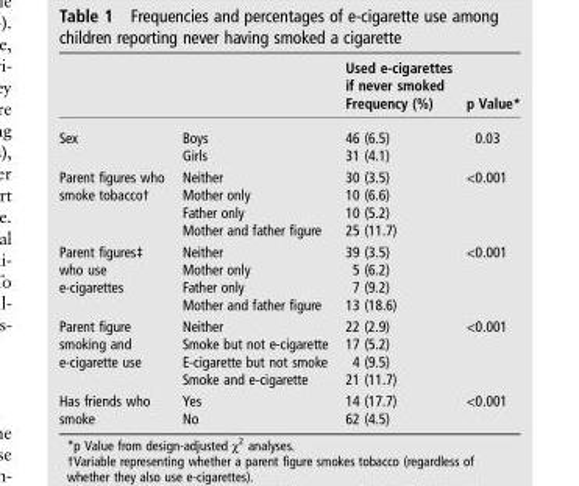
<table><thead><tr><td></td><td></td><td>Used e-cigarettes if never smoked Frequency (%)</td><td>p Value*</td></tr></thead><tbody><tr><td rowspan="2">Sex</td><td>Boys</td><td>46 (6.5)</td><td rowspan="2">0.03</td></tr><tr><td>Girls</td><td>31 (4.1)</td></tr><tr><td rowspan="4">Parent figures who smoke tobacco†</td><td>Neither</td><td>30 (3.5)</td><td rowspan="4">&lt;0.001</td></tr><tr><td>Mother only</td><td>10 (6.6)</td></tr><tr><td>Father only</td><td>10 (5.2)</td></tr><tr><td>Mother and father figure</td><td>25 (11.7)</td></tr><tr><td rowspan="4">Parent figures‡ who use e-cigarettes</td><td>Neither</td><td>39 (3.5)</td><td rowspan="4">&lt;0.001</td></tr><tr><td>Mother only</td><td>5 (6.2)</td></tr><tr><td>Father only</td><td>7 (9.2)</td></tr><tr><td>Mother and father figure</td><td>13 (18.6)</td></tr><tr><td rowspan="4">Parent figure smoking and e-cigarette use</td><td>Neither</td><td>22 (2.9)</td><td rowspan="4">&lt;0.001</td></tr><tr><td>Smoke but not e-cigarette</td><td>17 (5.2)</td></tr><tr><td>E-cigarette but not smoke</td><td>4 (9.5)</td></tr><tr><td>Smoke and e-cigarette</td><td>21 (11.7)</td></tr><tr><td rowspan="2">Has friends who smoke</td><td>Yes</td><td>14 (17.7)</td><td rowspan="2">&lt;0.001</td></tr><tr><td>No</td><td>62 (4.5)</td></tr></tbody></table>